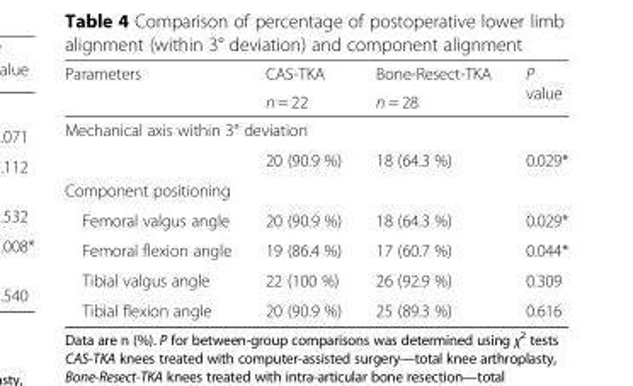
<table><thead><tr><td rowspan="2">Parameters</td><td rowspan="2">CAS-TKA n = 22</td><td rowspan="2">Bone-Resect-TKA n = 28</td><td rowspan="2">P value</td></tr><tr></tr></thead><tbody><tr><td colspan="4">Mechanical axis within 3° deviation</td></tr><tr><td></td><td>20 (90.9 %)</td><td>18 (64.3 %)</td><td>0.029*</td></tr><tr><td colspan="4">Component positioning</td></tr><tr><td>Femoral valgus angle</td><td>20 (90.9 %)</td><td>18 (64.3 %)</td><td>0.029*</td></tr><tr><td>Femoral flexion angle</td><td>19 (86.4 %)</td><td>17 (60.7 %)</td><td>0.044*</td></tr><tr><td>Tibial valgus angle</td><td>22 (100 %)</td><td>26 (92.9 %)</td><td>0.309</td></tr><tr><td>Tibial flexion angle</td><td>20 (90.9 %)</td><td>25 (89.3 %)</td><td>0.616</td></tr></tbody></table>